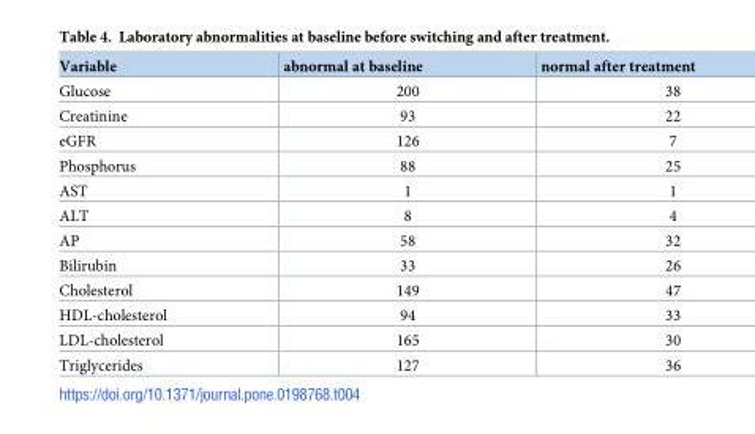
<table><thead><tr><td>Variable</td><td>abnormal at baseline</td><td>normal after treatment</td></tr></thead><tbody><tr><td>Glucose</td><td>200</td><td>38</td></tr><tr><td>Creatinine</td><td>93</td><td>22</td></tr><tr><td>eGFR</td><td>126</td><td>7</td></tr><tr><td>Phosphorus</td><td>88</td><td>25</td></tr><tr><td>AST</td><td>1</td><td>1</td></tr><tr><td>ALT</td><td>8</td><td>4</td></tr><tr><td>AP</td><td>58</td><td>32</td></tr><tr><td>Bilirubin</td><td>33</td><td>26</td></tr><tr><td>Cholesterol</td><td>149</td><td>47</td></tr><tr><td>HDL-cholesterol</td><td>94</td><td>33</td></tr><tr><td>LDL-cholesterol</td><td>165</td><td>30</td></tr><tr><td>Triglycerides</td><td>127</td><td>36</td></tr></tbody></table>